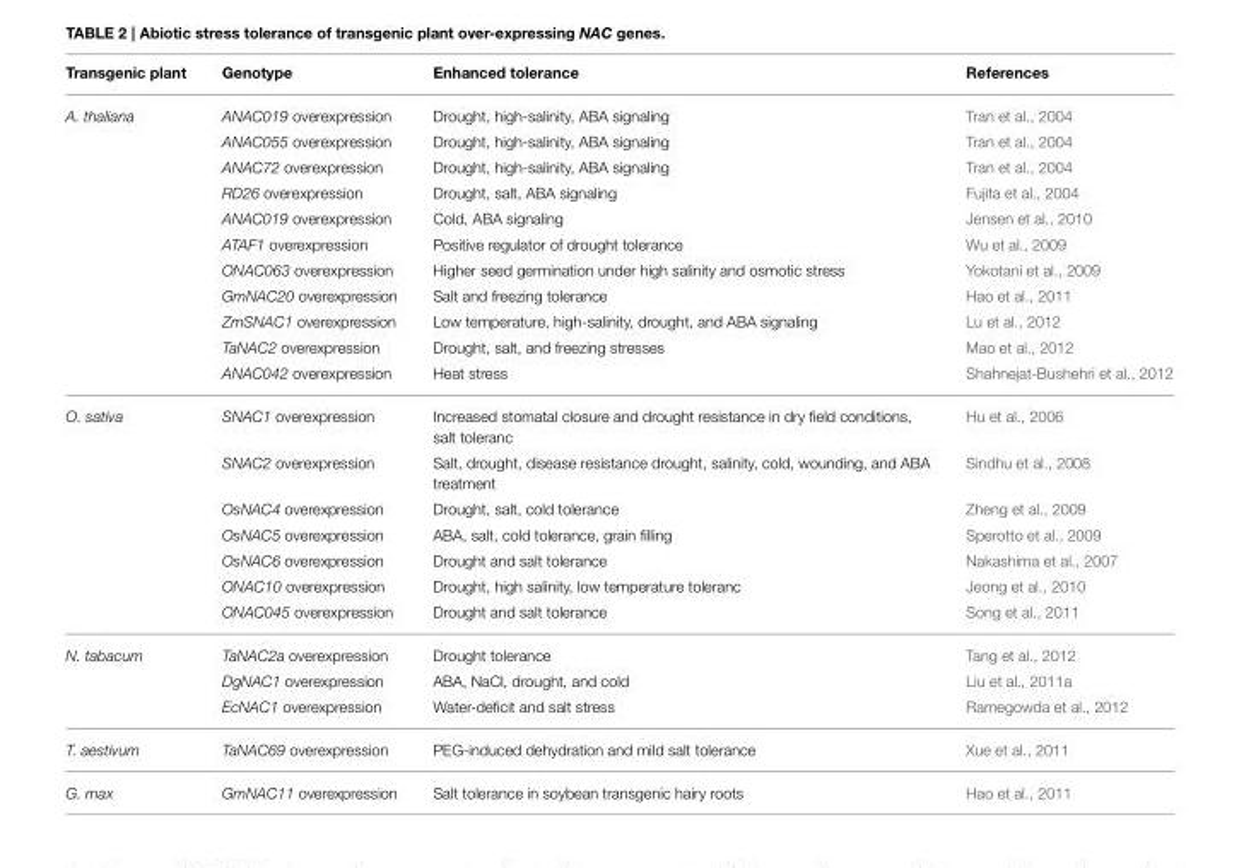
<table><thead><tr><td>Transgenic plant</td><td>Genotype</td><td>Enhanced tolerance</td><td>References</td></tr></thead><tbody><tr><td rowspan="11">A. thaliana</td><td>ANAC019 overexpression</td><td>Drought, high-salinity, ABA signaling</td><td>Tran et al., 2004</td></tr><tr><td>ANAC055 overexpression</td><td>Drought, high-salinity, ABA signaling</td><td>Tran et al., 2004</td></tr><tr><td>ANAC72 overexpression</td><td>Drought, high-salinity, ABA signaling</td><td>Tran et al., 2004</td></tr><tr><td>RD26 overexpression</td><td>Drought, salt, ABA signaling</td><td>Fujita et al., 2004</td></tr><tr><td>ANAC019 overexpression</td><td>Cold, ABA signaling</td><td>Jensen et al., 2010</td></tr><tr><td>ATAF1 overexpression</td><td>Positive regulator of drought tolerance</td><td>Wu et al., 2009</td></tr><tr><td>ONAC063 overexpression</td><td>Higher seed germination under high salinity and osmotic stress</td><td>Yokotani et al., 2009</td></tr><tr><td>GmNAC20 overexpression</td><td>Salt and freezing tolerance</td><td>Hao et al., 2011</td></tr><tr><td>ZmSNAC1 overexpression</td><td>Low temperature, high-salinity, drought, and ABA signaling</td><td>Lu et al., 2012</td></tr><tr><td>TaNAC2 overexpression</td><td>Drought, salt, and freezing stresses</td><td>Mao et al., 2012</td></tr><tr><td>ANAC042 overexpression</td><td>Heat stress</td><td>Shahnejat-Bushehri et al., 2012</td></tr><tr><td rowspan="7">O. sativa</td><td>SNAC1 overexpression</td><td>Increased stomatal closure and drought resistance in dry field conditions, salt toleranc</td><td>Hu et al., 2006</td></tr><tr><td>SNAC2 overexpression</td><td>Salt, drought, disease resistance drought, salinity, cold, wounding, and ABA treatment</td><td>Sindhu et al., 2008</td></tr><tr><td>OsNAC4 overexpression</td><td>Drought, salt, cold tolerance</td><td>Zheng et al., 2009</td></tr><tr><td>OsNAC5 overexpression</td><td>ABA, salt, cold tolerance, grain filling</td><td>Sperotto et al., 2009</td></tr><tr><td>OsNAC6 overexpression</td><td>Drought and salt tolerance</td><td>Nakashima et al., 2007</td></tr><tr><td>ONAC10 overexpression</td><td>Drought, high salinity, low temperature toleranc</td><td>Jeong et al., 2010</td></tr><tr><td>ONAC045 overexpression</td><td>Drought and salt tolerance</td><td>Song et al., 2011</td></tr><tr><td rowspan="3">N. tabacum</td><td>TaNAC2a overexpression</td><td>Drought tolerance</td><td>Tang et al., 2012</td></tr><tr><td>DgNAC1 overexpression</td><td>ABA, NaCl, drought, and cold</td><td>Liu et al., 2011a</td></tr><tr><td>EcNAC1 overexpression</td><td>Water-deficit and salt stress</td><td>Ramegowda et al., 2012</td></tr><tr><td>T. aestivum</td><td>TaNAC69 overexpression</td><td>PEG-induced dehydration and mild salt tolerance</td><td>Xue et al., 2011</td></tr><tr><td>G. max</td><td>GmNAC11 overexpression</td><td>Salt tolerance in soybean transgenic hairy roots</td><td>Hao et al., 2011</td></tr></tbody></table>